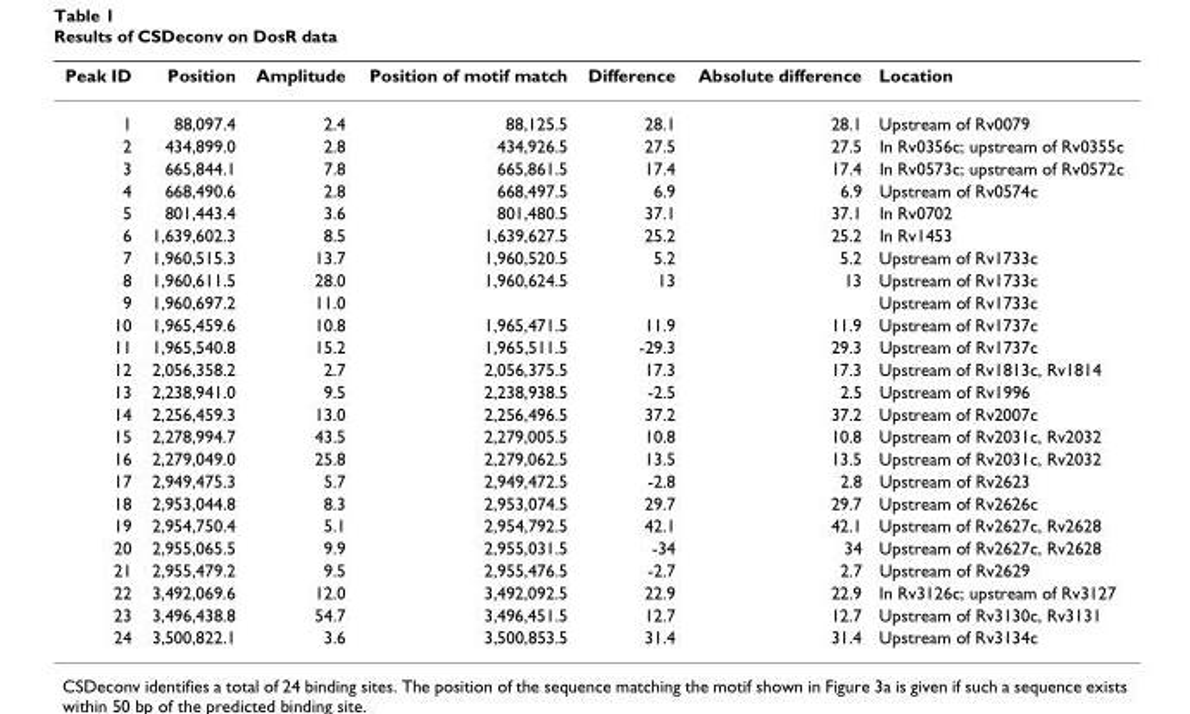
<table><thead><tr><td>Peak ID</td><td>Position</td><td>Amplitude</td><td>Position of motif match</td><td>Difference</td><td>Absolute difference</td><td>Location</td></tr></thead><tbody><tr><td>1</td><td>88,097.4</td><td>2.4</td><td>88,125.5</td><td>28.1</td><td>28.1</td><td>Upstream of Rv0079</td></tr><tr><td>2</td><td>434,899.0</td><td>2.8</td><td>434,926.5</td><td>27.5</td><td>27.5</td><td>In Rv0356c; upstream of Rv0355c</td></tr><tr><td>3</td><td>665,844.1</td><td>7.8</td><td>665,861.5</td><td>17.4</td><td>17.4</td><td>In Rv0573c; upstream of Rv0572c</td></tr><tr><td>4</td><td>668,490.6</td><td>2.8</td><td>668,497.5</td><td>6.9</td><td>6.9</td><td>Upstream of Rv0574c</td></tr><tr><td>5</td><td>801,443.4</td><td>3.6</td><td>801,480.5</td><td>37.1</td><td>37.1</td><td>In Rv0702</td></tr><tr><td>6</td><td>1,639,602.3</td><td>8.5</td><td>1,639,627.5</td><td>25.2</td><td>25.2</td><td>In Rv1453</td></tr><tr><td>7</td><td>1,960,515.3</td><td>13.7</td><td>1,960,520.5</td><td>5.2</td><td>5.2</td><td>Upstream of Rv1733c</td></tr><tr><td>8</td><td>1,960,611.5</td><td>28.0</td><td>1,960,624.5</td><td>13</td><td>13</td><td>Upstream of Rv1733c</td></tr><tr><td>9</td><td>1,960,697.2</td><td>11.0</td><td></td><td></td><td></td><td>Upstream of Rv1733c</td></tr><tr><td>10</td><td>1,965,459.6</td><td>10.8</td><td>1,965,471.5</td><td>11.9</td><td>11.9</td><td>Upstream of Rv1737c</td></tr><tr><td>11</td><td>1,965,540.8</td><td>15.2</td><td>1,965,511.5</td><td>-29.3</td><td>29.3</td><td>Upstream of Rv1737c</td></tr><tr><td>12</td><td>2,056,358.2</td><td>2.7</td><td>2,056,375.5</td><td>17.3</td><td>17.3</td><td>Upstream of Rv1813c, Rv1814</td></tr><tr><td>13</td><td>2,238,941.0</td><td>9.5</td><td>2,238,938.5</td><td>-2.5</td><td>2.5</td><td>Upstream of Rv1996</td></tr><tr><td>14</td><td>2,256,459.3</td><td>13.0</td><td>2,256,496.5</td><td>37.2</td><td>37.2</td><td>Upstream of Rv2007c</td></tr><tr><td>15</td><td>2,278,994.7</td><td>43.5</td><td>2,279,005.5</td><td>10.8</td><td>10.8</td><td>Upstream of Rv2031c, Rv2032</td></tr><tr><td>16</td><td>2,279,049.0</td><td>25.8</td><td>2,279,062.5</td><td>13.5</td><td>13.5</td><td>Upstream of Rv2031c, Rv2032</td></tr><tr><td>17</td><td>2,949,475.3</td><td>5.7</td><td>2,949,472.5</td><td>-2.8</td><td>2.8</td><td>Upstream of Rv2623</td></tr><tr><td>18</td><td>2,953,044.8</td><td>8.3</td><td>2,953,074.5</td><td>29.7</td><td>29.7</td><td>Upstream of Rv2626c</td></tr><tr><td>19</td><td>2,954,750.4</td><td>5.1</td><td>2,954,792.5</td><td>42.1</td><td>42.1</td><td>Upstream of Rv2627c, Rv2628</td></tr><tr><td>20</td><td>2,955,065.5</td><td>9.9</td><td>2,955,031.5</td><td>-34</td><td>34</td><td>Upstream of Rv2627c, Rv2628</td></tr><tr><td>21</td><td>2,955,479.2</td><td>9.5</td><td>2,955,476.5</td><td>-2.7</td><td>2.7</td><td>Upstream of Rv2629</td></tr><tr><td>22</td><td>3,492,069.6</td><td>12.0</td><td>3,492,092.5</td><td>22.9</td><td>22.9</td><td>In Rv3126c; upstream of Rv3127</td></tr><tr><td>23</td><td>3,496,438.8</td><td>54.7</td><td>3,496,451.5</td><td>12.7</td><td>12.7</td><td>Upstream of Rv3130c, Rv3131</td></tr><tr><td>24</td><td>3,500,822.1</td><td>3.6</td><td>3,500,853.5</td><td>31.4</td><td>31.4</td><td>Upstream of Rv3134c</td></tr></tbody></table>